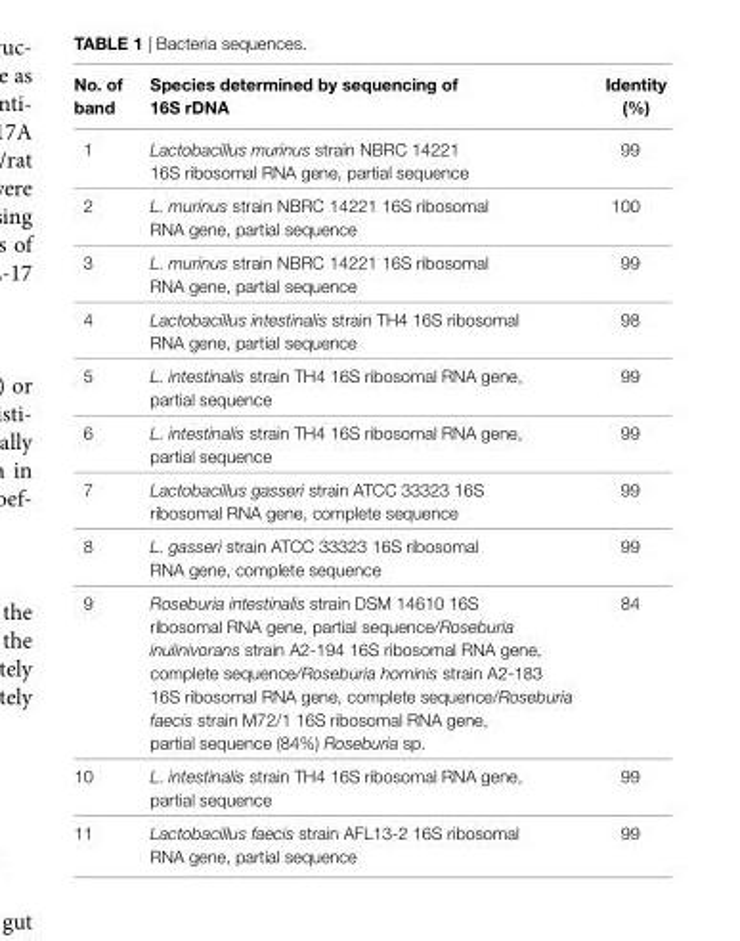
<table><thead><tr><td>no. of band</td><td>species determined by sequencing of 16s rDna</td><td>identity (%)</td></tr></thead><tbody><tr><td>1</td><td>Lactobacillus murinus strain NBRC 14221 16S ribosomal RNA gene, partial sequence</td><td>99</td></tr><tr><td>2</td><td>L. murinus strain NBRC 14221 16S ribosomal RNA gene, partial sequence</td><td>100</td></tr><tr><td>3</td><td>L. murinus strain NBRC 14221 16S ribosomal RNA gene, partial sequence</td><td>99</td></tr><tr><td>4</td><td>Lactobacillus intestinalis strain TH4 16S ribosomal RNA gene, partial sequence</td><td>98</td></tr><tr><td>5</td><td>L. intestinalis strain TH4 16S ribosomal RNA gene, partial sequence</td><td>99</td></tr><tr><td>6</td><td>L. intestinalis strain TH4 16S ribosomal RNA gene, partial sequence</td><td>99</td></tr><tr><td>7</td><td>Lactobacillus gasseri strain ATCC 33323 16S ribosomal RNA gene, complete sequence</td><td>99</td></tr><tr><td>8</td><td>L. gasseri strain ATCC 33323 16S ribosomal RNA gene, complete sequence</td><td>99</td></tr><tr><td>9</td><td>Roseburia intestinalis strain DSM 14610 16S ribosomal RNA gene, partial sequence/Roseburia inulinivorans strain A2-194 16S ribosomal RNA gene, complete sequence/Roseburia hominis strain A2-183 16S ribosomal RNA gene, complete sequence/Roseburia faecis strain M72/1 16S ribosomal RNA gene, partial sequence (84%) Roseburia sp.</td><td>84</td></tr><tr><td>10</td><td>L. intestinalis strain TH4 16S ribosomal RNA gene, partial sequence</td><td>99</td></tr><tr><td>11</td><td>Lactobacillus faecis strain AFL13-2 16S ribosomal RNA gene, partial sequence</td><td>99</td></tr></tbody></table>